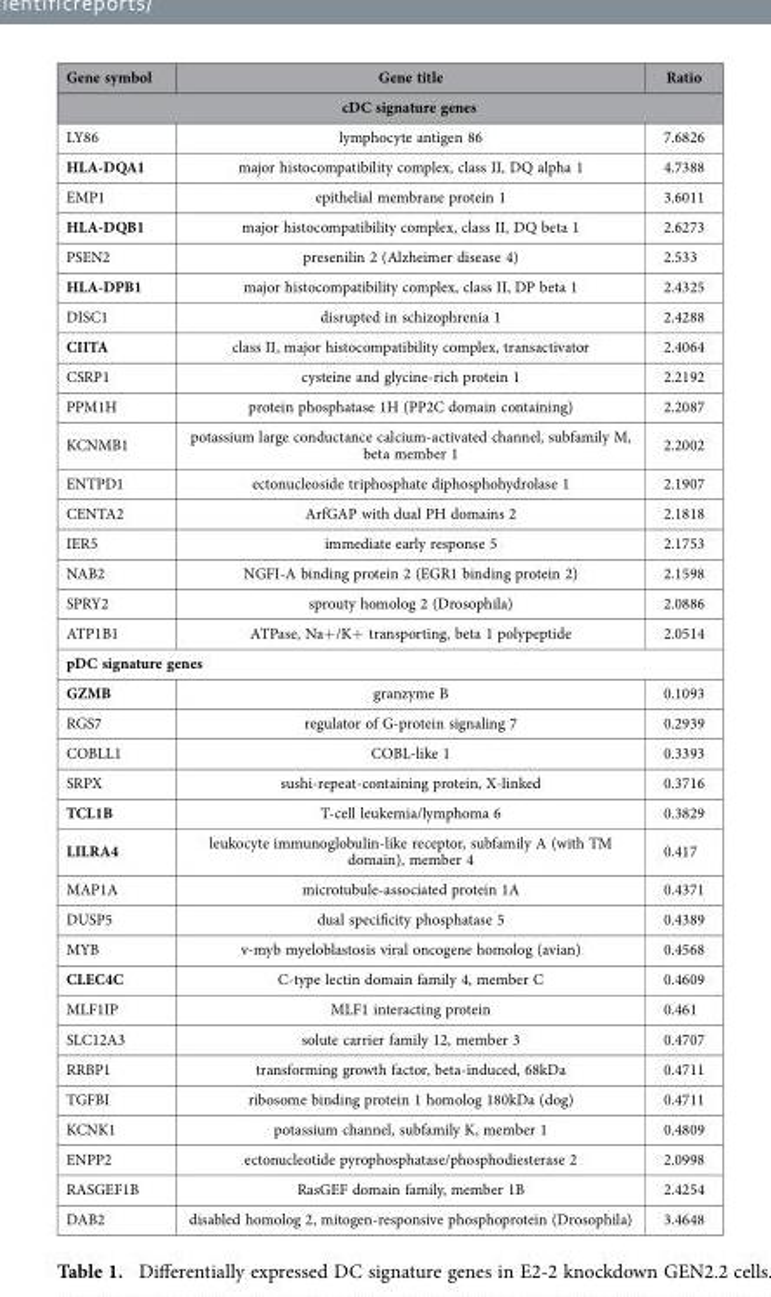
<table><thead><tr><td>Gene symbol</td><td>Gene title</td><td>Ratio</td></tr><tr><td colspan="3">cDC signature genes</td></tr></thead><tbody><tr><td>LY86</td><td>lymphocyte antigen 86</td><td>7.6826</td></tr><tr><td>HLA-DQA1</td><td>major histocompatibility complex, class II, DQ alpha 1</td><td>4.7388</td></tr><tr><td>EMP1</td><td>epithelial membrane protein 1</td><td>3.6011</td></tr><tr><td>HLA-DQB1</td><td>major histocompatibility complex, class II, DQ beta 1</td><td>2.6273</td></tr><tr><td>PSEN2</td><td>presenilin 2 (Alzheimer disease 4)</td><td>2.533</td></tr><tr><td>HLA-DPB1</td><td>major histocompatibility complex, class II, DP beta 1</td><td>2.4325</td></tr><tr><td>DISC1</td><td>disrupted in schizophrenia 1</td><td>2.4288</td></tr><tr><td>CIITA</td><td>class II, major histocompatibility complex, transactivator</td><td>2.4064</td></tr><tr><td>CSRP1</td><td>cysteine and glycine-rich protein 1</td><td>2.2192</td></tr><tr><td>PPM1H</td><td>protein phosphatase 1H (PP2C domain containing)</td><td>2.2087</td></tr><tr><td>KCNMB1</td><td>potassium large conductance calcium-activated channel, subfamily M, beta member 1</td><td>2.2002</td></tr><tr><td>ENTPD1</td><td>ectonucleoside triphosphate diphosphohydrolase 1</td><td>2.1907</td></tr><tr><td>CENTA2</td><td>ArfGAP with dual PH domains 2</td><td>2.1818</td></tr><tr><td>IER5</td><td>immediate early response 5</td><td>2.1753</td></tr><tr><td>NAB2</td><td>NGFI-A binding protein 2 (EGR1 binding protein 2)</td><td>2.1598</td></tr><tr><td>SPRY2</td><td>sprouty homolog 2 (Drosophila)</td><td>2.0886</td></tr><tr><td>ATP1B1</td><td>ATPase, Na+ /K+ transporting, beta 1 polypeptide</td><td>2.0514</td></tr><tr><td colspan="3">pDC signature genes</td></tr><tr><td>GZMB</td><td>granzyme B</td><td>0.1093</td></tr><tr><td>RGS7</td><td>regulator of G-protein signaling 7</td><td>0.2939</td></tr><tr><td>COBLL1</td><td>COBL-like 1</td><td>0.3393</td></tr><tr><td>SRPX</td><td>sushi-repeat-containing protein, X-linked</td><td>0.3716</td></tr><tr><td>TCL1B</td><td>T-cell leukemia/lymphoma 6</td><td>0.3829</td></tr><tr><td>LILRA4</td><td>leukocyte immunoglobulin-like receptor, subfamily A (with TM domain), member 4</td><td>0.417</td></tr><tr><td>MAP1A</td><td>microtubule-associated protein 1A</td><td>0.4371</td></tr><tr><td>DUSP5</td><td>dual specificity phosphatase 5</td><td>0.4389</td></tr><tr><td>MYB</td><td>v-myb myeloblastosis viral oncogene homolog (avian)</td><td>0.4568</td></tr><tr><td>CLEC4C</td><td>C-type lectin domain family 4, member C</td><td>0.4609</td></tr><tr><td>MLF1IP</td><td>MLF1 interacting protein</td><td>0.461</td></tr><tr><td>SLC12A3</td><td>solute carrier family 12, member 3</td><td>0.4707</td></tr><tr><td>RRBP1</td><td>transforming growth factor, beta-induced, 68kDa</td><td>0.4711</td></tr><tr><td>TGFBI</td><td>ribosome binding protein 1 homolog 180kDa (dog)</td><td>0.4711</td></tr><tr><td>KCNK1</td><td>potassium channel, subfamily K, member 1</td><td>0.4809</td></tr><tr><td>ENPP2</td><td>ectonucleotide pyrophosphatase/phosphodiesterase 2</td><td>2.0998</td></tr><tr><td>RASGEF1B</td><td>RasGEF domain family, member 1B</td><td>2.4254</td></tr><tr><td>DAB2</td><td>disabled homolog 2, mitogen-responsive phosphoprotein (Drosophila)</td><td>3.4648</td></tr></tbody></table>